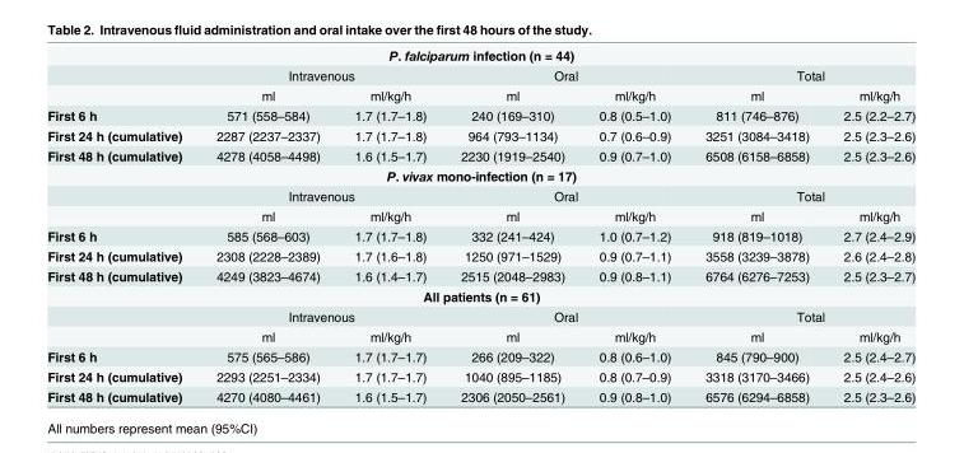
<table><tbody><tr><td colspan="7">P. falciparum infection (n = 44)</td></tr><tr><td></td><td colspan="2">Intravenous</td><td colspan="2">Oral</td><td colspan="2">Total</td></tr><tr><td></td><td>ml</td><td>ml/kg/h</td><td>ml</td><td>ml/kg/h</td><td>ml</td><td>ml/kg/h</td></tr><tr><td>First 6 h</td><td>571 (558–584)</td><td>1.7 (1.7–1.8)</td><td>240 (169–310)</td><td>0.8 (0.5–1.0)</td><td>811 (746–876)</td><td>2.5 (2.2–2.7)</td></tr><tr><td>First 24 h (cumulative)</td><td>2287 (2237–2337)</td><td>1.7 (1.7–1.8)</td><td>964 (793–1134)</td><td>0.7 (0.6–0.9)</td><td>3251 (3084–3418)</td><td>2.5 (2.3–2.6)</td></tr><tr><td>First 48 h (cumulative)</td><td>4278 (4058–4498)</td><td>1.6 (1.5–1.7)</td><td>2230 (1919–2540)</td><td>0.9 (0.7–1.0)</td><td>6508 (6158–6858)</td><td>2.5 (2.3–2.6)</td></tr><tr><td colspan="7">P. vivax mono-infection (n = 17)</td></tr><tr><td></td><td colspan="2">Intravenous</td><td colspan="2">Oral</td><td colspan="2">Total</td></tr><tr><td></td><td>ml</td><td>ml/kg/h</td><td>ml</td><td>ml/kg/h</td><td>ml</td><td>ml/kg/h</td></tr><tr><td>First 6 h</td><td>585 (568–603)</td><td>1.7 (1.7–1.8)</td><td>332 (241–424)</td><td>1.0 (0.7–1.2)</td><td>918 (819–1018)</td><td>2.7 (2.4–2.9)</td></tr><tr><td>First 24 h (cumulative)</td><td>2308 (2228–2389)</td><td>1.7 (1.6–1.8)</td><td>1250 (971–1529)</td><td>0.9 (0.7–1.1)</td><td>3558 (3239–3878)</td><td>2.6 (2.4–2.8)</td></tr><tr><td>First 48 h (cumulative)</td><td>4249 (3823–4674)</td><td>1.6 (1.4–1.7)</td><td>2515 (2048–2983)</td><td>0.9 (0.8–1.1)</td><td>6764 (6276–7253)</td><td>2.5 (2.3–2.7)</td></tr><tr><td colspan="7">All patients (n = 61)</td></tr><tr><td></td><td colspan="2">Intravenous</td><td colspan="2">Oral</td><td colspan="2">Total</td></tr><tr><td></td><td>ml</td><td>ml/kg/h</td><td>ml</td><td>ml/kg/h</td><td>ml</td><td>ml/kg/h</td></tr><tr><td>First 6 h</td><td>575 (565–586)</td><td>1.7 (1.7–1.7)</td><td>266 (209–322)</td><td>0.8 (0.6–1.0)</td><td>845 (790–900)</td><td>2.5 (2.4–2.7)</td></tr><tr><td>First 24 h (cumulative)</td><td>2293 (2251–2334)</td><td>1.7 (1.7–1.7)</td><td>1040 (895–1185)</td><td>0.8 (0.7–0.9)</td><td>3318 (3170–3466)</td><td>2.5 (2.4–2.6)</td></tr><tr><td>First 48 h (cumulative)</td><td>4270 (4080–4461)</td><td>1.6 (1.5–1.7)</td><td>2306 (2050–2561)</td><td>0.9 (0.8–1.0)</td><td>6576 (6294–6858)</td><td>2.5 (2.3–2.6)</td></tr></tbody></table>